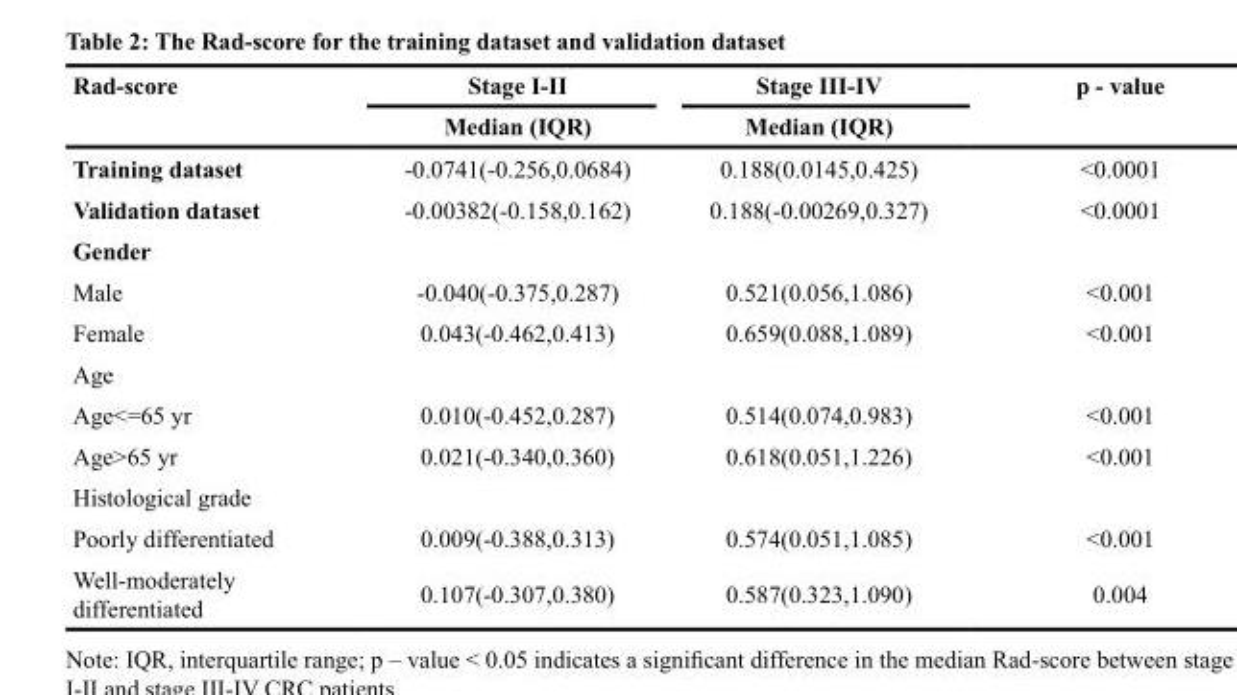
<table><thead><tr><td rowspan="2">Rad-score</td><td rowspan="2">Stage I-II Median (IQR)</td><td rowspan="2">Stage III-IV Median (IQR)</td><td rowspan="2">p - value</td></tr><tr></tr></thead><tbody><tr><td>Training dataset</td><td>-0.0741(-0.256,0.0684)</td><td>0.188(0.0145,0.425)</td><td>&lt;0.0001</td></tr><tr><td>Validation dataset</td><td>-0.00382(-0.158,0.162)</td><td>0.188(-0.00269,0.327)</td><td>&lt;0.0001</td></tr><tr><td colspan="4">Gender</td></tr><tr><td>Male</td><td>-0.040(-0.375,0.287)</td><td>0.521(0.056,1.086)</td><td>&lt;0.001</td></tr><tr><td>Female</td><td>0.043(-0.462,0.413)</td><td>0.659(0.088,1.089)</td><td>&lt;0.001</td></tr><tr><td colspan="4">Age</td></tr><tr><td>Age&lt;=65 yr</td><td>0.010(-0.452,0.287)</td><td>0.514(0.074,0.983)</td><td>&lt;0.001</td></tr><tr><td>Age&gt;65 yr</td><td>0.021(-0.340,0.360)</td><td>0.618(0.051,1.226)</td><td>&lt;0.001</td></tr><tr><td colspan="4">Histological grade</td></tr><tr><td>Poorly differentiated</td><td>0.009(-0.388,0.313)</td><td>0.574(0.051,1.085)</td><td>&lt;0.001</td></tr><tr><td>Well-moderately differentiated</td><td>0.107(-0.307,0.380)</td><td>0.587(0.323,1.090)</td><td>0.004</td></tr></tbody></table>